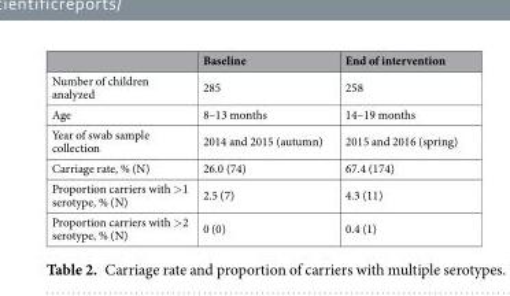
<table><thead><tr><td></td><td>Baseline</td><td>End of intervention</td></tr></thead><tbody><tr><td>Number of children analyzed</td><td>285</td><td>258</td></tr><tr><td>Age</td><td>8–13 months</td><td>14–19 months</td></tr><tr><td>Year of swab sample collection</td><td>2014 and 2015 (autumn)</td><td>2015 and 2016 (spring)</td></tr><tr><td>Carriage rate, % (N)</td><td>26.0 (74)</td><td>67.4 (174)</td></tr><tr><td>Proportion carriers with &gt;1 serotype, % (N)</td><td>2.5 (7)</td><td>4.3 (11)</td></tr><tr><td>Proportion carriers with &gt;2 serotype, % (N)</td><td>0 (0)</td><td>0.4 (1)</td></tr></tbody></table>